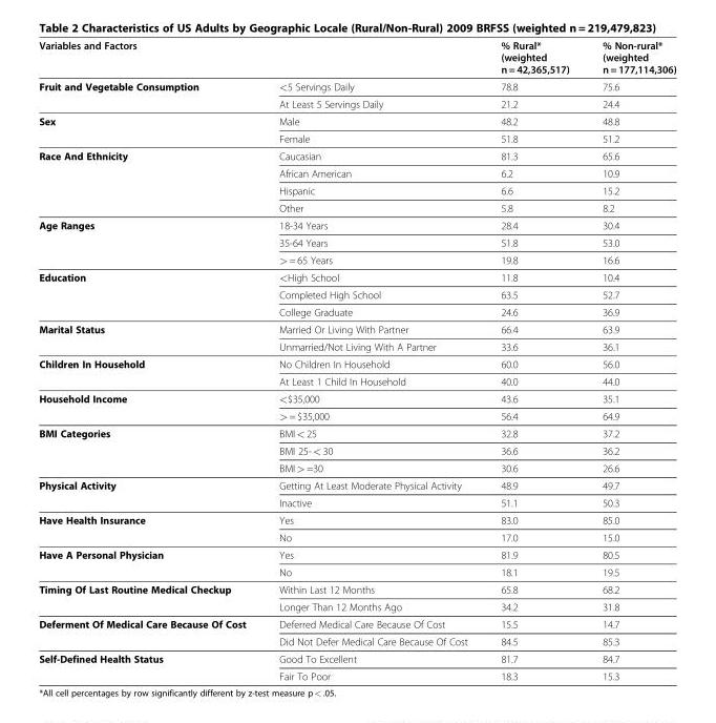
<table><thead><tr><td colspan="2">Variables and Factors</td><td rowspan="2">% Rural* (weighted n = 42,365,517) 78.8</td><td rowspan="2">% Non-rural* (weighted n = 177,114,306) 75.6</td></tr><tr><td>Fruit and Vegetable Consumption</td><td>&lt;5 Servings Daily</td></tr></thead><tbody><tr><td></td><td>At Least 5 Servings Daily</td><td>21.2</td><td>24.4</td></tr><tr><td rowspan="2">Sex</td><td>Male</td><td>48.2</td><td>48.8</td></tr><tr><td>Female</td><td>51.8</td><td>51.2</td></tr><tr><td rowspan="4">Race And Ethnicity</td><td>Caucasian</td><td>81.3</td><td>65.6</td></tr><tr><td>African American</td><td>6.2</td><td>10.9</td></tr><tr><td>Hispanic</td><td>6.6</td><td>15.2</td></tr><tr><td>Other</td><td>5.8</td><td>8.2</td></tr><tr><td rowspan="3">Age Ranges</td><td>18-34 Years</td><td>28.4</td><td>30.4</td></tr><tr><td>35-64 Years</td><td>51.8</td><td>53.0</td></tr><tr><td>&gt; = 65 Years</td><td>19.8</td><td>16.6</td></tr><tr><td rowspan="3">Education</td><td>&lt;High School</td><td>11.8</td><td>10.4</td></tr><tr><td>Completed High School</td><td>63.5</td><td>52.7</td></tr><tr><td>College Graduate</td><td>24.6</td><td>36.9</td></tr><tr><td rowspan="2">Marital Status</td><td>Married Or Living With Partner</td><td>66.4</td><td>63.9</td></tr><tr><td>Unmarried/Not Living With A Partner</td><td>33.6</td><td>36.1</td></tr><tr><td rowspan="2">Children In Household</td><td>No Children In Household</td><td>60.0</td><td>56.0</td></tr><tr><td>At Least 1 Child In Household</td><td>40.0</td><td>44.0</td></tr><tr><td rowspan="2">Household Income</td><td>&lt;$35,000</td><td>43.6</td><td>35.1</td></tr><tr><td>&gt; = $35,000</td><td>56.4</td><td>64.9</td></tr><tr><td rowspan="3">BMI Categories</td><td>BMI &lt; 25</td><td>32.8</td><td>37.2</td></tr><tr><td>BMI 25- &lt; 30</td><td>36.6</td><td>36.2</td></tr><tr><td>BMI &gt; =30</td><td>30.6</td><td>26.6</td></tr><tr><td rowspan="2">Physical Activity</td><td>Getting At Least Moderate Physical Activity</td><td>48.9</td><td>49.7</td></tr><tr><td>Inactive</td><td>51.1</td><td>50.3</td></tr><tr><td rowspan="2">Have Health Insurance</td><td>Yes</td><td>83.0</td><td>85.0</td></tr><tr><td>No</td><td>17.0</td><td>15.0</td></tr><tr><td rowspan="2">Have A Personal Physician</td><td>Yes</td><td>81.9</td><td>80.5</td></tr><tr><td>No</td><td>18.1</td><td>19.5</td></tr><tr><td rowspan="2">Timing Of Last Routine Medical Checkup</td><td>Within Last 12 Months</td><td>65.8</td><td>68.2</td></tr><tr><td>Longer Than 12 Months Ago</td><td>34.2</td><td>31.8</td></tr><tr><td rowspan="2">Deferment Of Medical Care Because Of Cost</td><td>Deferred Medical Care Because Of Cost</td><td>15.5</td><td>14.7</td></tr><tr><td>Did Not Defer Medical Care Because Of Cost</td><td>84.5</td><td>85.3</td></tr><tr><td rowspan="2">Self-Defined Health Status</td><td>Good To Excellent</td><td>81.7</td><td>84.7</td></tr><tr><td>Fair To Poor</td><td>18.3</td><td>15.3</td></tr></tbody></table>